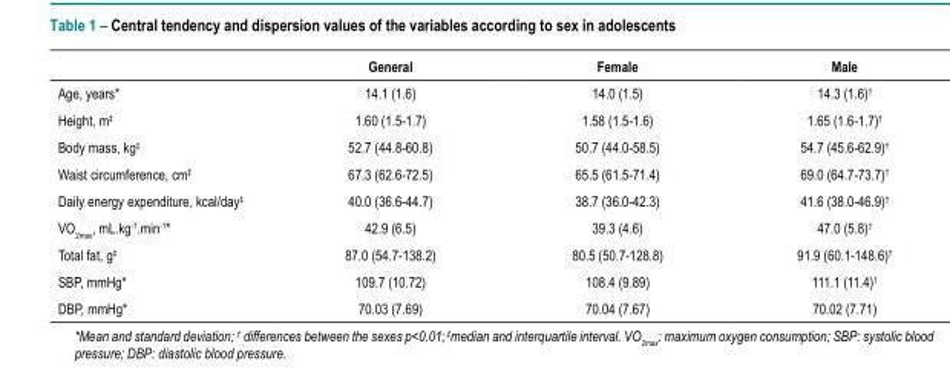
<table><thead><tr><td></td><td>General</td><td>Female</td><td>Male</td></tr></thead><tbody><tr><td>Age, years*</td><td>14.1 (1.6)</td><td>14.0 (1.5)</td><td>14.3 (1.6)†</td></tr><tr><td>Height, m‡</td><td>1.60 (1.5-1.7)</td><td>1.58 (1.5-1.6)</td><td>1.65 (1.6-1.7)†</td></tr><tr><td>Body mass, kg‡</td><td>52.7 (44.8-60.8)</td><td>50.7 (44.0-58.5)</td><td>54.7 (45.6-62.9)†</td></tr><tr><td>Waist circumference, cm‡</td><td>67.3 (62.6-72.5)</td><td>65.5 (61.5-71.4)</td><td>69.0 (64.7-73.7)†</td></tr><tr><td>Daily energy expenditure, kcal/day‡</td><td>40.0 (36.6-44.7)</td><td>38.7 (36.0-42.3)</td><td>41.6 (38.0-46.9)†</td></tr><tr><td>VO<sub>2max</sub>, mL.kg<sup>-1</sup>.min<sup>-1</sup>*</td><td>42.9 (6.5)</td><td>39.3 (4.6)</td><td>47.0 (5.8)†</td></tr><tr><td>Total fat, g‡</td><td>87.0 (54.7-138.2)</td><td>80.5 (50.7-128.8)</td><td>91.9 (60.1-148.6)†</td></tr><tr><td>SBP, mmHg*</td><td>109.7 (10.72)</td><td>108.4 (9.89)</td><td>111.1 (11.4)†</td></tr><tr><td>DBP, mmHg*</td><td>70.03 (7.69)</td><td>70.04 (7.67)</td><td>70.02 (7.71)</td></tr></tbody></table>